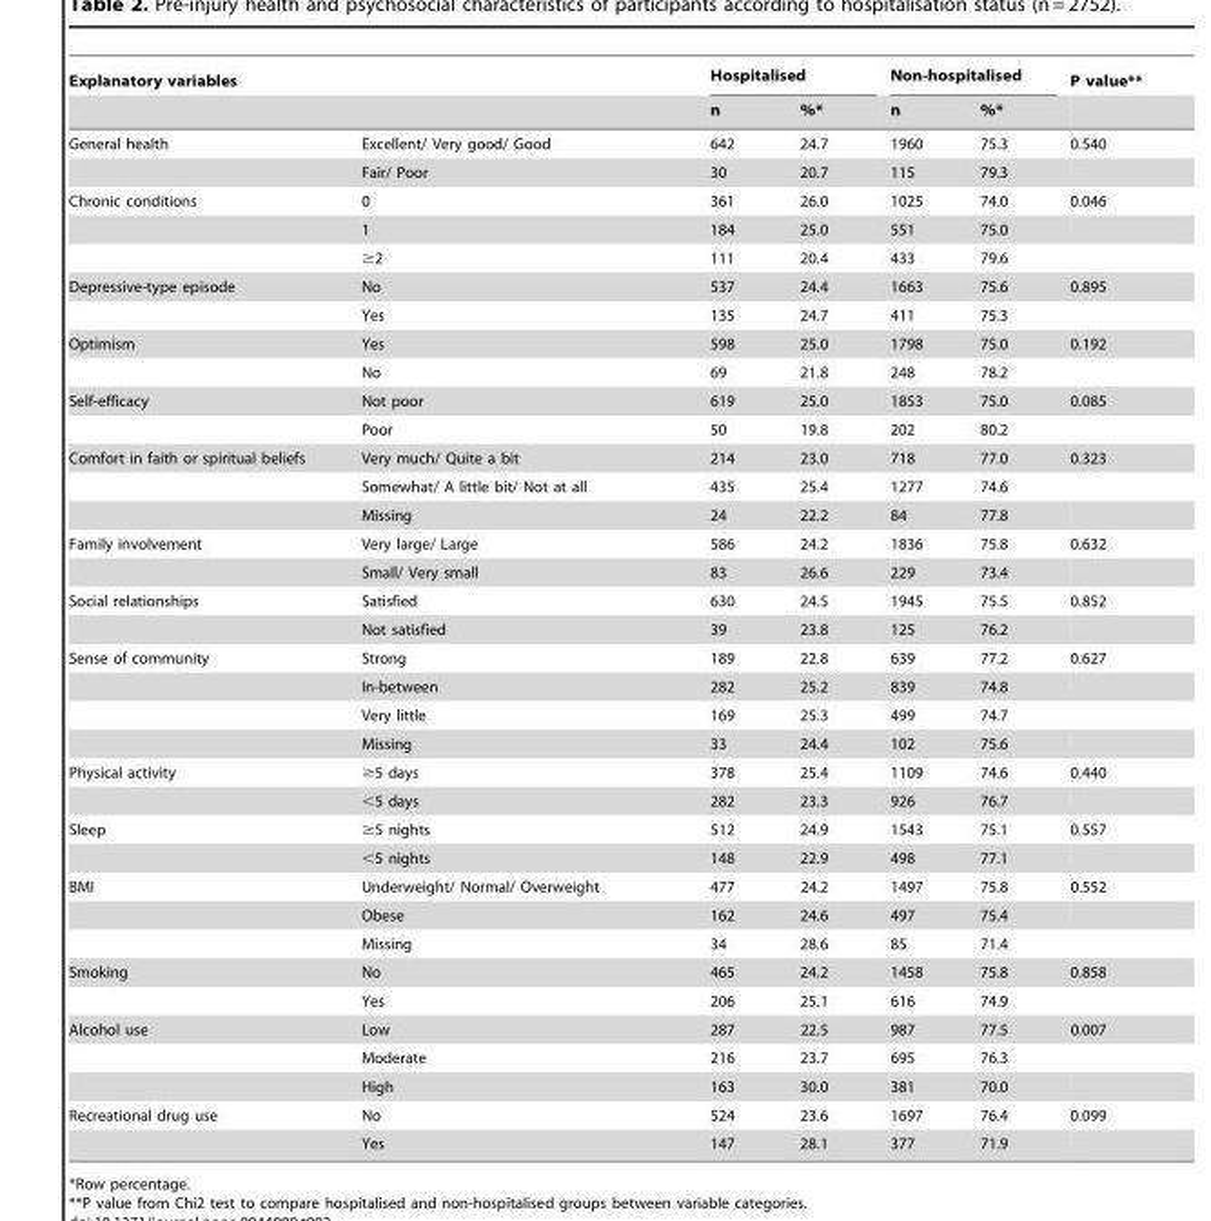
<table><thead><tr><td colspan="2">Explanatory variables</td><td colspan="2">Hospitalised</td><td colspan="2">Non-hospitalised</td><td rowspan="2">P value**</td></tr><tr><td></td><td></td><td>n</td><td>%*</td><td>n</td><td>%*</td></tr></thead><tbody><tr><td rowspan="2">General health</td><td>Excellent/ Very good/ Good</td><td>642</td><td>24.7</td><td>1960</td><td>75.3</td><td>0.540</td></tr><tr><td>Fair/ Poor</td><td>30</td><td>20.7</td><td>115</td><td>79.3</td><td></td></tr><tr><td rowspan="3">Chronic conditions</td><td>0</td><td>361</td><td>26.0</td><td>1025</td><td>74.0</td><td>0.046</td></tr><tr><td>1</td><td>184</td><td>25.0</td><td>551</td><td>75.0</td><td></td></tr><tr><td>≥2</td><td>111</td><td>20.4</td><td>433</td><td>79.6</td><td></td></tr><tr><td rowspan="2">Depressive-type episode</td><td>No</td><td>537</td><td>24.4</td><td>1663</td><td>75.6</td><td>0.895</td></tr><tr><td>Yes</td><td>135</td><td>24.7</td><td>411</td><td>75.3</td><td></td></tr><tr><td rowspan="2">Optimism</td><td>Yes</td><td>598</td><td>25.0</td><td>1798</td><td>75.0</td><td>0.192</td></tr><tr><td>No</td><td>69</td><td>21.8</td><td>248</td><td>78.2</td><td></td></tr><tr><td rowspan="2">Self-efficacy</td><td>Not poor</td><td>619</td><td>25.0</td><td>1853</td><td>75.0</td><td>0.085</td></tr><tr><td>Poor</td><td>50</td><td>19.8</td><td>202</td><td>80.2</td><td></td></tr><tr><td rowspan="3">Comfort in faith or spiritual beliefs</td><td>Very much/ Quite a bit</td><td>214</td><td>23.0</td><td>718</td><td>77.0</td><td>0.323</td></tr><tr><td>Somewhat/ A little bit/ Not at all</td><td>435</td><td>25.4</td><td>1277</td><td>74.6</td><td></td></tr><tr><td>Missing</td><td>24</td><td>22.2</td><td>84</td><td>77.8</td><td></td></tr><tr><td rowspan="2">Family involvement</td><td>Very large/ Large</td><td>586</td><td>24.2</td><td>1836</td><td>75.8</td><td>0.632</td></tr><tr><td>Small/ Very small</td><td>83</td><td>26.6</td><td>229</td><td>73.4</td><td></td></tr><tr><td rowspan="2">Social relationships</td><td>Satisfied</td><td>630</td><td>24.5</td><td>1945</td><td>75.5</td><td>0.852</td></tr><tr><td>Not satisfied</td><td>39</td><td>23.8</td><td>125</td><td>76.2</td><td></td></tr><tr><td rowspan="4">Sense of community</td><td>Strong</td><td>189</td><td>22.8</td><td>639</td><td>77.2</td><td>0.627</td></tr><tr><td>In-between</td><td>282</td><td>25.2</td><td>839</td><td>74.8</td><td></td></tr><tr><td>Very little</td><td>169</td><td>25.3</td><td>499</td><td>74.7</td><td></td></tr><tr><td>Missing</td><td>33</td><td>24.4</td><td>102</td><td>75.6</td><td></td></tr><tr><td rowspan="2">Physical activity</td><td>≥5 days</td><td>378</td><td>25.4</td><td>1109</td><td>74.6</td><td>0.440</td></tr><tr><td>&lt;5 days</td><td>282</td><td>23.3</td><td>926</td><td>76.7</td><td></td></tr><tr><td rowspan="2">Sleep</td><td>≥5 nights</td><td>512</td><td>24.9</td><td>1543</td><td>75.1</td><td>0.557</td></tr><tr><td>&lt;5 nights</td><td>148</td><td>22.9</td><td>498</td><td>77.1</td><td></td></tr><tr><td rowspan="3">BMI</td><td>Underweight/ Normal/ Overweight</td><td>477</td><td>24.2</td><td>1497</td><td>75.8</td><td>0.552</td></tr><tr><td>Obese</td><td>162</td><td>24.6</td><td>497</td><td>75.4</td><td></td></tr><tr><td>Missing</td><td>34</td><td>28.6</td><td>85</td><td>71.4</td><td></td></tr><tr><td rowspan="2">Smoking</td><td>No</td><td>465</td><td>24.2</td><td>1458</td><td>75.8</td><td>0.858</td></tr><tr><td>Yes</td><td>206</td><td>25.1</td><td>616</td><td>74.9</td><td></td></tr><tr><td rowspan="3">Alcohol use</td><td>Low</td><td>287</td><td>22.5</td><td>987</td><td>77.5</td><td>0.007</td></tr><tr><td>Moderate</td><td>216</td><td>23.7</td><td>695</td><td>76.3</td><td></td></tr><tr><td>High</td><td>163</td><td>30.0</td><td>381</td><td>70.0</td><td></td></tr><tr><td rowspan="2">Recreational drug use</td><td>No</td><td>524</td><td>23.6</td><td>1697</td><td>76.4</td><td>0.099</td></tr><tr><td>Yes</td><td>147</td><td>28.1</td><td>377</td><td>71.9</td><td></td></tr></tbody></table>